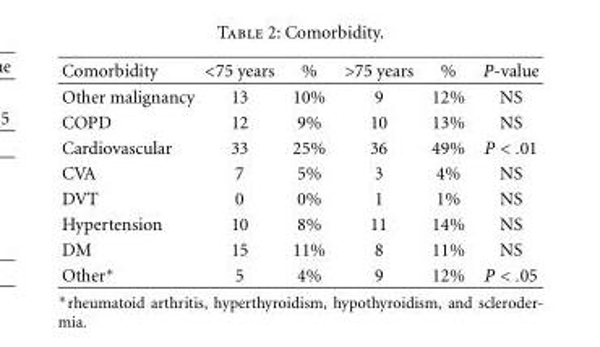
<table><thead><tr><td>Comorbidity</td><td>&lt;75 years</td><td>%</td><td>&gt;75 years</td><td>%</td><td>P-value</td></tr></thead><tbody><tr><td>Other malignancy</td><td>13</td><td>10%</td><td>9</td><td>12%</td><td>NS</td></tr><tr><td>COPD</td><td>12</td><td>9%</td><td>10</td><td>13%</td><td>NS</td></tr><tr><td>Cardiovascular</td><td>33</td><td>25%</td><td>36</td><td>49%</td><td>P &lt; .01</td></tr><tr><td>CVA</td><td>7</td><td>5%</td><td>3</td><td>4%</td><td>NS</td></tr><tr><td>DVT</td><td>0</td><td>0%</td><td>1</td><td>1%</td><td>NS</td></tr><tr><td>Hypertension</td><td>10</td><td>8%</td><td>11</td><td>14%</td><td>NS</td></tr><tr><td>DM</td><td>15</td><td>11%</td><td>8</td><td>11%</td><td>NS</td></tr><tr><td>Other∗</td><td>5</td><td>4%</td><td>9</td><td>12%</td><td>P &lt; .05</td></tr></tbody></table>